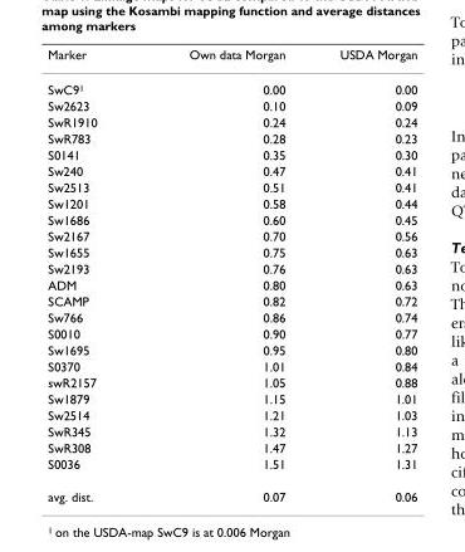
<table><thead><tr><td>Marker</td><td>Own data Morgan</td><td>USDA Morgan</td></tr></thead><tbody><tr><td>SwC9<sup>1</sup></td><td>0.00</td><td>0.00</td></tr><tr><td>Sw2623</td><td>0.10</td><td>0.09</td></tr><tr><td>SwR1910</td><td>0.24</td><td>0.24</td></tr><tr><td>SwR783</td><td>0.28</td><td>0.23</td></tr><tr><td>S0141</td><td>0.35</td><td>0.30</td></tr><tr><td>Sw240</td><td>0.47</td><td>0.41</td></tr><tr><td>Sw2513</td><td>0.51</td><td>0.41</td></tr><tr><td>Sw1201</td><td>0.58</td><td>0.44</td></tr><tr><td>Sw1686</td><td>0.60</td><td>0.45</td></tr><tr><td>Sw2167</td><td>0.70</td><td>0.56</td></tr><tr><td>Sw1655</td><td>0.75</td><td>0.63</td></tr><tr><td>Sw2193</td><td>0.76</td><td>0.63</td></tr><tr><td>ADM</td><td>0.80</td><td>0.63</td></tr><tr><td>SCAMP</td><td>0.82</td><td>0.72</td></tr><tr><td>Sw766</td><td>0.86</td><td>0.74</td></tr><tr><td>S0010</td><td>0.90</td><td>0.77</td></tr><tr><td>Sw1695</td><td>0.95</td><td>0.80</td></tr><tr><td>S0370</td><td>1.01</td><td>0.84</td></tr><tr><td>swR2157</td><td>1.05</td><td>0.88</td></tr><tr><td>Sw1879</td><td>1.15</td><td>1.01</td></tr><tr><td>Sw2514</td><td>1.21</td><td>1.03</td></tr><tr><td>SwR345</td><td>1.32</td><td>1.13</td></tr><tr><td>SwR308</td><td>1.47</td><td>1.27</td></tr><tr><td>S0036</td><td>1.51</td><td>1.31</td></tr><tr><td>avg. dist.</td><td>0.07</td><td>0.06</td></tr></tbody></table>